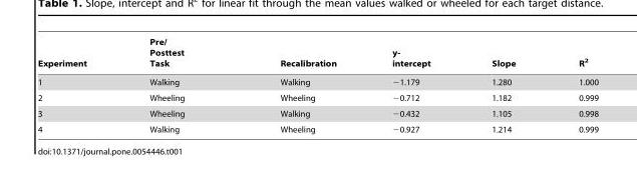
<table><thead><tr><td>Experiment</td><td>Pre/ Posttest Task</td><td>Recalibration</td><td>y- intercept</td><td>Slope</td><td>R<sup>2</sup></td></tr></thead><tbody><tr><td>1</td><td>Walking</td><td>Walking</td><td>−1.179</td><td>1.280</td><td>1.000</td></tr><tr><td>2</td><td>Wheeling</td><td>Wheeling</td><td>−0.712</td><td>1.182</td><td>0.999</td></tr><tr><td>3</td><td>Wheeling</td><td>Walking</td><td>−0.432</td><td>1.105</td><td>0.998</td></tr><tr><td>4</td><td>Walking</td><td>Wheeling</td><td>−0.927</td><td>1.214</td><td>0.999</td></tr></tbody></table>